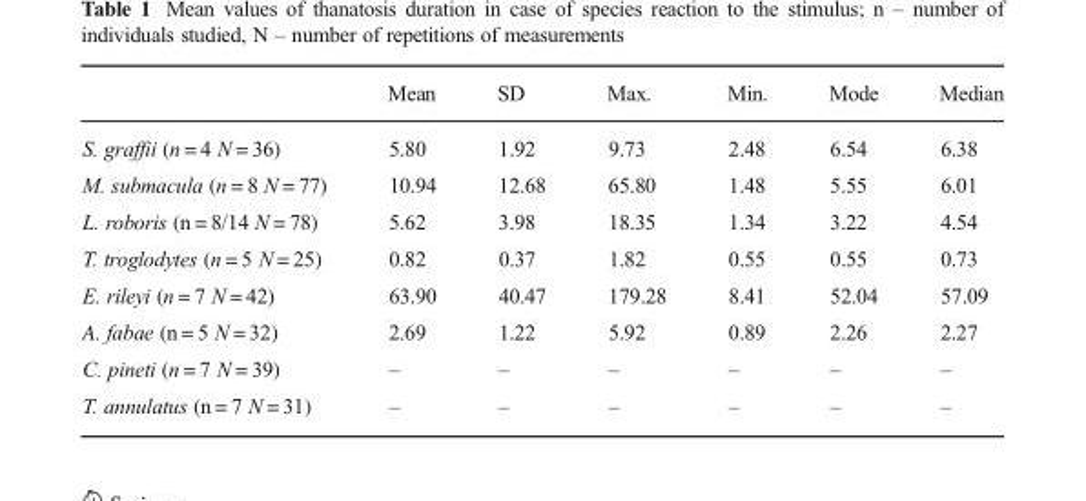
<table><thead><tr><td></td><td>Mean</td><td>SD</td><td>Max.</td><td>Min.</td><td>Mode</td><td>Median</td></tr></thead><tbody><tr><td>S. graffii (n = 4 N = 36)</td><td>5.80</td><td>1.92</td><td>9.73</td><td>2.48</td><td>6.54</td><td>6.38</td></tr><tr><td>M. submacula (n = 8 N = 77)</td><td>10.94</td><td>12.68</td><td>65.80</td><td>1.48</td><td>5.55</td><td>6.01</td></tr><tr><td>L. roboris (n = 8/14 N = 78)</td><td>5.62</td><td>3.98</td><td>18.35</td><td>1.34</td><td>3.22</td><td>4.54</td></tr><tr><td>T. troglodytes (n = 5 N = 25)</td><td>0.82</td><td>0.37</td><td>1.82</td><td>0.55</td><td>0.55</td><td>0.73</td></tr><tr><td>E. rileyi (n = 7 N = 42)</td><td>63.90</td><td>40.47</td><td>179.28</td><td>8.41</td><td>52.04</td><td>57.09</td></tr><tr><td>A. fabae (n = 5 N = 32)</td><td>2.69</td><td>1.22</td><td>5.92</td><td>0.89</td><td>2.26</td><td>2.27</td></tr><tr><td>C. pineti (n = 7 N = 39)</td><td>–</td><td>–</td><td>–</td><td>–</td><td>–</td><td>–</td></tr><tr><td>T. annulatus (n = 7 N = 31)</td><td>–</td><td>–</td><td>–</td><td>–</td><td>–</td><td>–</td></tr></tbody></table>